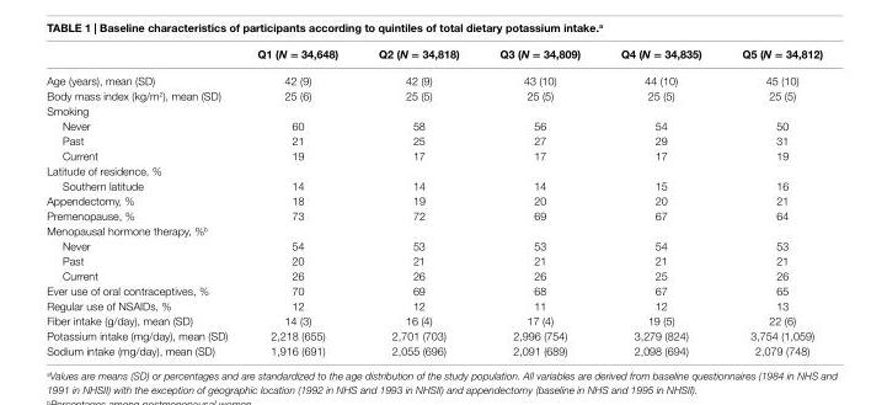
<table><thead><tr><td></td><td>Q1 (N = 34,648)</td><td>Q2 (N = 34,818)</td><td>Q3 (N = 34,809)</td><td>Q4 (N = 34,835)</td><td>Q5 (N = 34,812)</td></tr></thead><tbody><tr><td>Age (years), mean (SD)</td><td>42 (9)</td><td>42 (9)</td><td>43 (10)</td><td>44 (10)</td><td>45 (10)</td></tr><tr><td>Body mass index (kg/m<sup>2</sup>), mean (SD)</td><td>25 (6)</td><td>25 (5)</td><td>25 (5)</td><td>25 (5)</td><td>25 (5)</td></tr><tr><td colspan="6">Smoking</td></tr><tr><td>Never</td><td>60</td><td>58</td><td>56</td><td>54</td><td>50</td></tr><tr><td>Past</td><td>21</td><td>25</td><td>27</td><td>29</td><td>31</td></tr><tr><td>Current</td><td>19</td><td>17</td><td>17</td><td>17</td><td>19</td></tr><tr><td colspan="6">Latitude of residence, %</td></tr><tr><td>Southern latitude</td><td>14</td><td>14</td><td>14</td><td>15</td><td>16</td></tr><tr><td>Appendectomy, %</td><td>18</td><td>19</td><td>20</td><td>20</td><td>21</td></tr><tr><td>Premenopause, %</td><td>73</td><td>72</td><td>69</td><td>67</td><td>64</td></tr><tr><td colspan="6">Menopausal hormone therapy, %<sup>b</sup></td></tr><tr><td>Never</td><td>54</td><td>53</td><td>53</td><td>54</td><td>53</td></tr><tr><td>Past</td><td>20</td><td>21</td><td>21</td><td>21</td><td>21</td></tr><tr><td>Current</td><td>26</td><td>26</td><td>26</td><td>25</td><td>26</td></tr><tr><td>Ever use of oral contraceptives, %</td><td>70</td><td>69</td><td>68</td><td>67</td><td>65</td></tr><tr><td>Regular use of NSAIDs, %</td><td>12</td><td>12</td><td>11</td><td>12</td><td>13</td></tr><tr><td>Fiber intake (g/day), mean (SD)</td><td>14 (3)</td><td>16 (4)</td><td>17 (4)</td><td>19 (5)</td><td>22 (6)</td></tr><tr><td>Potassium intake (mg/day), mean (SD)</td><td>2,218 (655)</td><td>2,701 (703)</td><td>2,996 (754)</td><td>3,279 (824)</td><td>3,754 (1,059)</td></tr><tr><td>Sodium intake (mg/day), mean (SD)</td><td>1,916 (691)</td><td>2,055 (696)</td><td>2,091 (689)</td><td>2,098 (694)</td><td>2,079 (748)</td></tr></tbody></table>